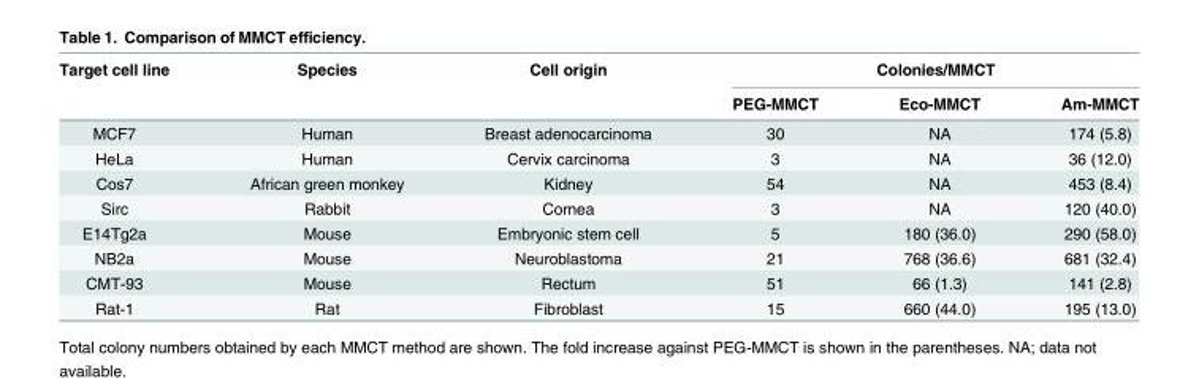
<table><thead><tr><td rowspan="2">Target cell line</td><td rowspan="2">Species</td><td rowspan="2">Cell origin</td><td colspan="3">Colonies/MMCT</td></tr><tr><td>PEG-MMCT</td><td>Eco-MMCT</td><td>Am-MMCT</td></tr></thead><tbody><tr><td>MCF7</td><td>Human</td><td>Breast adenocarcinoma</td><td>30</td><td>NA</td><td>174 (5.8)</td></tr><tr><td>HeLa</td><td>Human</td><td>Cervix carcinoma</td><td>3</td><td>NA</td><td>36 (12.0)</td></tr><tr><td>Cos7</td><td>African green monkey</td><td>Kidney</td><td>54</td><td>NA</td><td>453 (8.4)</td></tr><tr><td>Sirc</td><td>Rabbit</td><td>Cornea</td><td>3</td><td>NA</td><td>120 (40.0)</td></tr><tr><td>E14Tg2a</td><td>Mouse</td><td>Embryonic stem cell</td><td>5</td><td>180 (36.0)</td><td>290 (58.0)</td></tr><tr><td>NB2a</td><td>Mouse</td><td>Neuroblastoma</td><td>21</td><td>768 (36.6)</td><td>681 (32.4)</td></tr><tr><td>CMT-93</td><td>Mouse</td><td>Rectum</td><td>51</td><td>66 (1.3)</td><td>141 (2.8)</td></tr><tr><td>Rat-1</td><td>Rat</td><td>Fibroblast</td><td>15</td><td>660 (44.0)</td><td>195 (13.0)</td></tr></tbody></table>